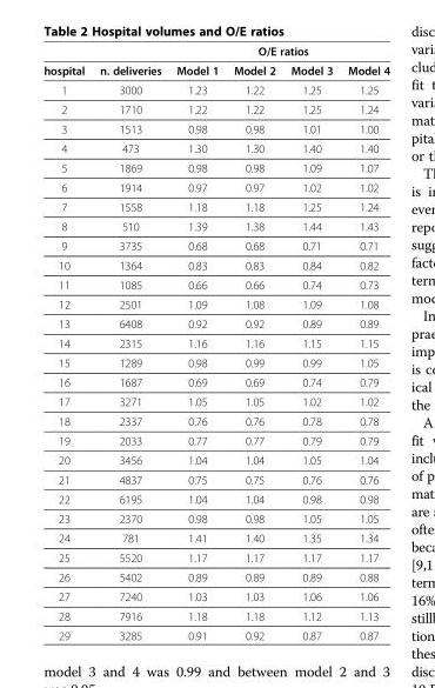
<table><thead><tr><td rowspan="2">hospital</td><td rowspan="2">n. deliveries</td><td colspan="4">O/E ratios</td></tr><tr><td>Model 1</td><td>Model 2</td><td>Model 3</td><td>Model 4</td></tr></thead><tbody><tr><td>1</td><td>3000</td><td>1.23</td><td>1.22</td><td>1.25</td><td>1.25</td></tr><tr><td>2</td><td>1710</td><td>1.22</td><td>1.22</td><td>1.25</td><td>1.24</td></tr><tr><td>3</td><td>1513</td><td>0.98</td><td>0.98</td><td>1.01</td><td>1.00</td></tr><tr><td>4</td><td>473</td><td>1.30</td><td>1.30</td><td>1.40</td><td>1.40</td></tr><tr><td>5</td><td>1869</td><td>0.98</td><td>0.98</td><td>1.09</td><td>1.07</td></tr><tr><td>6</td><td>1914</td><td>0.97</td><td>0.97</td><td>1.02</td><td>1.02</td></tr><tr><td>7</td><td>1558</td><td>1.18</td><td>1.18</td><td>1.25</td><td>1.24</td></tr><tr><td>8</td><td>510</td><td>1.39</td><td>1.38</td><td>1.44</td><td>1.43</td></tr><tr><td>9</td><td>3735</td><td>0.68</td><td>0.68</td><td>0.71</td><td>0.71</td></tr><tr><td>10</td><td>1364</td><td>0.83</td><td>0.83</td><td>0.84</td><td>0.82</td></tr><tr><td>11</td><td>1085</td><td>0.66</td><td>0.66</td><td>0.74</td><td>0.73</td></tr><tr><td>12</td><td>2501</td><td>1.09</td><td>1.08</td><td>1.09</td><td>1.08</td></tr><tr><td>13</td><td>6408</td><td>0.92</td><td>0.92</td><td>0.89</td><td>0.89</td></tr><tr><td>14</td><td>2315</td><td>1.16</td><td>1.16</td><td>1.15</td><td>1.15</td></tr><tr><td>15</td><td>1289</td><td>0.98</td><td>0.99</td><td>0.99</td><td>1.05</td></tr><tr><td>16</td><td>1687</td><td>0.69</td><td>0.69</td><td>0.74</td><td>0.79</td></tr><tr><td>17</td><td>3271</td><td>1.05</td><td>1.05</td><td>1.02</td><td>1.02</td></tr><tr><td>18</td><td>2337</td><td>0.76</td><td>0.76</td><td>0.78</td><td>0.78</td></tr><tr><td>19</td><td>2033</td><td>0.77</td><td>0.77</td><td>0.79</td><td>0.79</td></tr><tr><td>20</td><td>3456</td><td>1.04</td><td>1.04</td><td>1.05</td><td>1.04</td></tr><tr><td>21</td><td>4837</td><td>0.75</td><td>0.75</td><td>0.76</td><td>0.76</td></tr><tr><td>22</td><td>6195</td><td>1.04</td><td>1.04</td><td>0.98</td><td>0.98</td></tr><tr><td>23</td><td>2370</td><td>0.98</td><td>0.98</td><td>1.05</td><td>1.05</td></tr><tr><td>24</td><td>781</td><td>1.41</td><td>1.40</td><td>1.35</td><td>1.34</td></tr><tr><td>25</td><td>5520</td><td>1.17</td><td>1.17</td><td>1.17</td><td>1.17</td></tr><tr><td>26</td><td>5402</td><td>0.89</td><td>0.89</td><td>0.89</td><td>0.88</td></tr><tr><td>27</td><td>7240</td><td>1.03</td><td>1.03</td><td>1.06</td><td>1.06</td></tr><tr><td>28</td><td>7916</td><td>1.18</td><td>1.18</td><td>1.12</td><td>1.13</td></tr><tr><td>29</td><td>3285</td><td>0.91</td><td>0.92</td><td>0.87</td><td>0.87</td></tr></tbody></table>